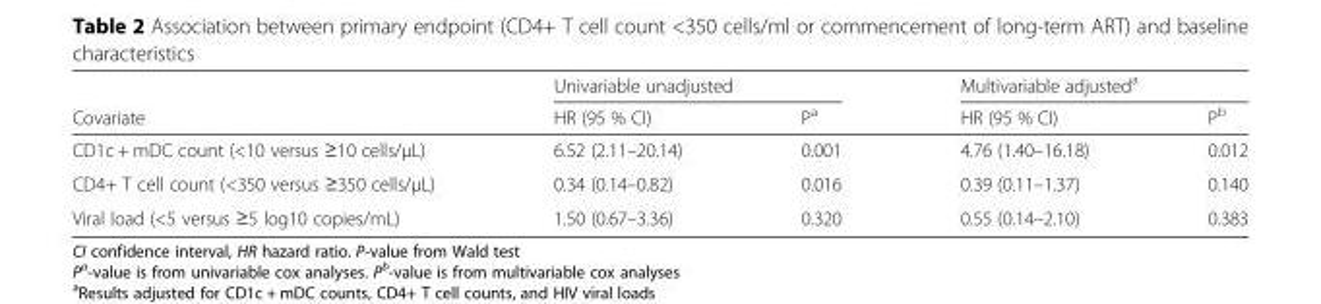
<table><thead><tr><td rowspan="2">Covariate</td><td colspan="2">Univariable unadjusted</td><td colspan="2">Multivariable adjusted<sup>a</sup></td></tr><tr><td>HR (95 % CI)</td><td>P<sup>a</sup></td><td>HR (95 % CI)</td><td>P<sup>b</sup></td></tr></thead><tbody><tr><td>CD1c + mDC count (&lt;10 versus ≥10 cells/μL)</td><td>6.52 (2.11–20.14)</td><td>0.001</td><td>4.76 (1.40–16.18)</td><td>0.012</td></tr><tr><td>CD4+ T cell count (&lt;350 versus ≥350 cells/μL)</td><td>0.34 (0.14–0.82)</td><td>0.016</td><td>0.39 (0.11–1.37)</td><td>0.140</td></tr><tr><td>Viral load (&lt;5 versus ≥5 log10 copies/mL)</td><td>1.50 (0.67–3.36)</td><td>0.320</td><td>0.55 (0.14–2.10)</td><td>0.383</td></tr></tbody></table>